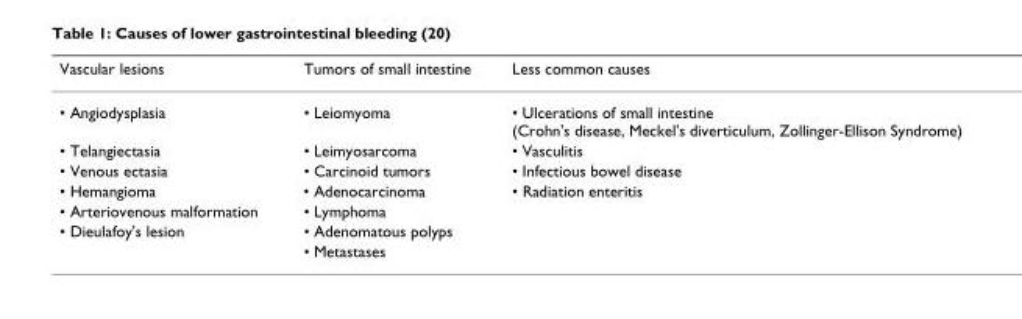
<table><thead><tr><td>Vascular lesions</td><td>Tumors of small intestine</td><td>Less common causes</td></tr></thead><tbody><tr><td>• Angiodysplasia</td><td>• Leiomyoma</td><td>• Ulcerations of small intestine (Crohn&#x27;s disease, Meckel&#x27;s diverticulum, Zollinger-Ellison Syndrome)</td></tr><tr><td>• Telangiectasia</td><td>• Leimyosarcoma</td><td>• Vasculitis</td></tr><tr><td>• Venous ectasia</td><td>• Carcinoid tumors</td><td>• Infectious bowel disease</td></tr><tr><td>• Hemangioma</td><td>• Adenocarcinoma</td><td>• Radiation enteritis</td></tr><tr><td>• Arteriovenous malformation</td><td>• Lymphoma</td><td></td></tr><tr><td rowspan="2">• Dieulafoy&#x27;s lesion</td><td>• Adenomatous polyps</td><td></td></tr><tr><td>• Metastases</td><td></td></tr></tbody></table>